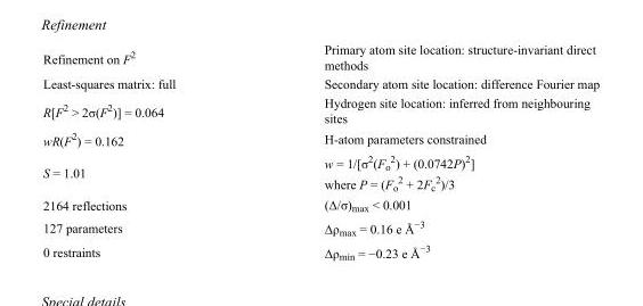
<table><tbody><tr><td>Refinement on F<sup>2</sup></td><td>Primary atom site location: structure-invariant direct methods</td></tr><tr><td>Least-squares matrix: full</td><td>Secondary atom site location: difference Fourier map</td></tr><tr><td>R[F<sup>2</sup> &gt; 2σ(F<sup>2</sup>)] = 0.064</td><td>Hydrogen site location: inferred from neighbouring sites</td></tr><tr><td>wR(F<sup>2</sup>) = 0.162</td><td>H-atom parameters constrained</td></tr><tr><td>S = 1.01</td><td>w = 1/[σ<sup>2</sup>(F<sub>o</sub> <sup>2</sup>) + (0.0742P)<sup>2</sup>] where P = (F<sub>o</sub> <sup>2</sup> + 2F<sub>c</sub> <sup>2</sup>)/3</td></tr><tr><td>2164 reflections</td><td>(Δ/σ)<sub>max</sub> &lt; 0.001</td></tr><tr><td>127 parameters</td><td>Δρ<sub>max</sub> = 0.16 e Å<sup>−3</sup></td></tr><tr><td>0 restraints</td><td>Δρ<sub>min</sub> = −0.23 e Å<sup>−3</sup></td></tr></tbody></table>